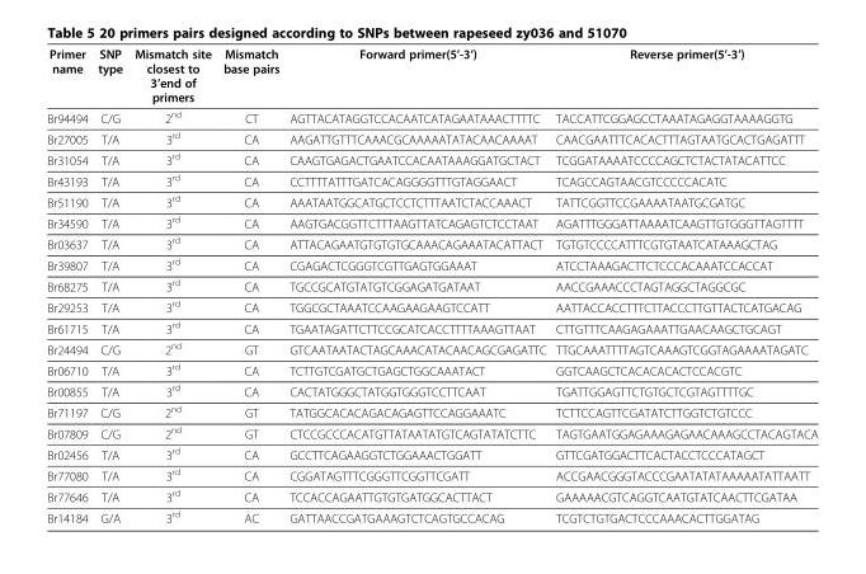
<table><thead><tr><td>Primer name</td><td>SNP type</td><td>Mismatch site closest to 3’end of primers</td><td>Mismatch base pairs</td><td>Forward primer(5’-3’)</td><td>Reverse primer(5’-3’)</td></tr></thead><tbody><tr><td>Br94494</td><td>C/G</td><td>2<sup>nd</sup></td><td>CT</td><td>AGTTACATAGGTCCACAATCATAGAATAAACTTTTC</td><td>TACCATTCGGAGCCTAAATAGAGGTAAAAGGTG</td></tr><tr><td>Br27005</td><td>T/A</td><td>3<sup>rd</sup></td><td>CA</td><td>AAGATTGTTTCAAACGCAAAAATATACAACAAAAT</td><td>CAACGAATTTCACACTTTAGTAATGCACTGAGATTT</td></tr><tr><td>Br31054</td><td>T/A</td><td>3<sup>rd</sup></td><td>CA</td><td>CAAGTGAGACTGAATCCACAATAAAGGATGCTACT</td><td>TCGGATAAAATCCCCAGCTCTACTATACATTCC</td></tr><tr><td>Br43193</td><td>T/A</td><td>3<sup>rd</sup></td><td>CA</td><td>CCTTTTATTTGATCACAGGGGTTTGTAGGAACT</td><td>TCAGCCAGTAACGTCCCCCACATC</td></tr><tr><td>Br51190</td><td>T/A</td><td>3<sup>rd</sup></td><td>CA</td><td>AAATAATGGCATGCTCCTCTTTAATCTACCAAACT</td><td>TATTCGGTTCCGAAAATAATGCGATGC</td></tr><tr><td>Br34590</td><td>T/A</td><td>3<sup>rd</sup></td><td>CA</td><td>AAGTGACGGTTCTTTAAGTTATCAGAGTCTCCTAAT</td><td>AGATTTGGGATTAAAATCAAGTTGTGGGTTAGTTTT</td></tr><tr><td>Br03637</td><td>T/A</td><td>3<sup>rd</sup></td><td>CA</td><td>ATTACAGAATGTGTGTGCAAACAGAAATACATTACT</td><td>TGTGTCCCCATTTCGTGTAATCATAAAGCTAG</td></tr><tr><td>Br39807</td><td>T/A</td><td>3<sup>rd</sup></td><td>CA</td><td>CGAGACTCGGGTCGTTGAGTGGAAAT</td><td>ATCCTAAAGACTTCTCCCACAAATCCACCAT</td></tr><tr><td>Br68275</td><td>T/A</td><td>3<sup>rd</sup></td><td>CA</td><td>TGCCGCATGTATGTCGGAGATGATAAT</td><td>AACCGAAACCCTAGTAGGCTAGGCGC</td></tr><tr><td>Br29253</td><td>T/A</td><td>3<sup>rd</sup></td><td>CA</td><td>TGGCGCTAAATCCAAGAAGAAGTCCATT</td><td>AATTACCACCTTTCTTACCCTTGTTACTCATGACAG</td></tr><tr><td>Br61715</td><td>T/A</td><td>3<sup>rd</sup></td><td>CA</td><td>TGAATAGATTCTTCCGCATCACCTTTTAAAGTTAAT</td><td>CTTGTTTCAAGAGAAATTGAACAAGCTGCAGT</td></tr><tr><td>Br24494</td><td>C/G</td><td>2<sup>nd</sup></td><td>GT</td><td>GTCAATAATACTAGCAAACATACAACAGCGAGATTC</td><td>TTGCAAATTTTAGTCAAAGTCGGTAGAAAATAGATC</td></tr><tr><td>Br06710</td><td>T/A</td><td>3<sup>rd</sup></td><td>CA</td><td>TCTTGTCGATGCTGAGCTGGCAAATACT</td><td>GGTCAAGCTCACACACACTCCACGTC</td></tr><tr><td>Br00855</td><td>T/A</td><td>3<sup>rd</sup></td><td>CA</td><td>CACTATGGGCTATGGTGGGTCCTTCAAT</td><td>TGATTGGAGTTCTGTGCTCGTAGTTTTGC</td></tr><tr><td>Br71197</td><td>C/G</td><td>2<sup>nd</sup></td><td>GT</td><td>TATGGCACACAGACAGAGTTCCAGGAAATC</td><td>TCTTCCAGTTCGATATCTTGGTCTGTCCC</td></tr><tr><td>Br07809</td><td>C/G</td><td>2<sup>nd</sup></td><td>GT</td><td>CTCCGCCCACATGTTATAATATGTCAGTATATCTTC</td><td>TAGTGAATGGAGAAAGAGAACAAAGCCTACAGTACA</td></tr><tr><td>Br02456</td><td>T/A</td><td>3<sup>rd</sup></td><td>CA</td><td>GCCTTCAGAAGGTCTGGAAACTGGATT</td><td>GTTCGATGGACTTCACTACCTCCCATAGCT</td></tr><tr><td>Br77080</td><td>T/A</td><td>3<sup>rd</sup></td><td>CA</td><td>CGGATAGTTTCGGGTTCGGTTCGATT</td><td>ACCGAACGGGTACCCGAATATATAAAAATATTAATT</td></tr><tr><td>Br77646</td><td>T/A</td><td>3<sup>rd</sup></td><td>CA</td><td>TCCACCAGAATTGTGTGATGGCACTTACT</td><td>GAAAAACGTCAGGTCAATGTATCAACTTCGATAA</td></tr><tr><td>Br14184</td><td>G/A</td><td>3<sup>rd</sup></td><td>AC</td><td>GATTAACCGATGAAAGTCTCAGTGCCACAG</td><td>TCGTCTGTGACTCCCAAACACTTGGATAG</td></tr></tbody></table>